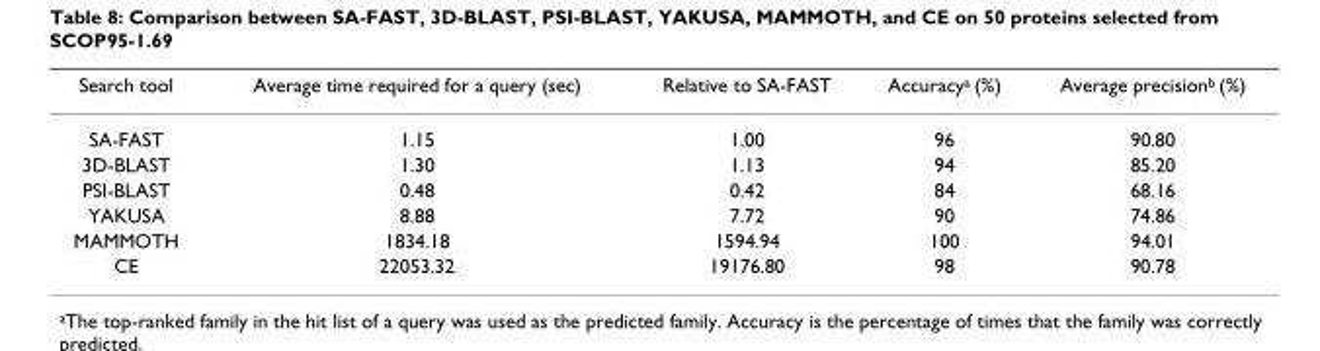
<table><thead><tr><td>Search tool</td><td>Average time required for a query (sec)</td><td>Relative to SA-FAST</td><td>Accuracy<sup>a</sup> (%)</td><td>Average precision<sup>b</sup> (%)</td></tr></thead><tbody><tr><td>SA-FAST</td><td>1.15</td><td>1.00</td><td>96</td><td>90.80</td></tr><tr><td>3D-BLAST</td><td>1.30</td><td>1.13</td><td>94</td><td>85.20</td></tr><tr><td>PSI-BLAST</td><td>0.48</td><td>0.42</td><td>84</td><td>68.16</td></tr><tr><td>YAKUSA</td><td>8.88</td><td>7.72</td><td>90</td><td>74.86</td></tr><tr><td>MAMMOTH</td><td>1834.18</td><td>1594.94</td><td>100</td><td>94.01</td></tr><tr><td>CE</td><td>22053.32</td><td>19176.80</td><td>98</td><td>90.78</td></tr></tbody></table>